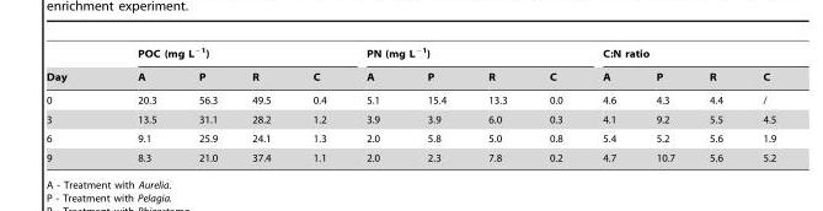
<table><thead><tr><td rowspan="2">Day</td><td colspan="4">POC (mg L<sup>−1</sup>)</td><td colspan="4">PN (mg L<sup>−1</sup>)</td><td colspan="4">C:N ratio</td></tr><tr><td>A</td><td>P</td><td>R</td><td>C</td><td>A</td><td>P</td><td>R</td><td>C</td><td>A</td><td>P</td><td>R</td><td>C</td></tr></thead><tbody><tr><td>0</td><td>20.3</td><td>56.3</td><td>49.5</td><td>0.4</td><td>5.1</td><td>15.4</td><td>13.3</td><td>0.0</td><td>4.6</td><td>4.3</td><td>4.4</td><td>/</td></tr><tr><td>3</td><td>13.5</td><td>31.1</td><td>28.2</td><td>1.2</td><td>3.9</td><td>3.9</td><td>6.0</td><td>0.3</td><td>4.1</td><td>9.2</td><td>5.5</td><td>4.5</td></tr><tr><td>6</td><td>9.1</td><td>25.9</td><td>24.1</td><td>1.3</td><td>2.0</td><td>5.8</td><td>5.0</td><td>0.8</td><td>5.4</td><td>5.2</td><td>5.6</td><td>1.9</td></tr><tr><td>9</td><td>8.3</td><td>21.0</td><td>37.4</td><td>1.1</td><td>2.0</td><td>2.3</td><td>7.8</td><td>0.2</td><td>4.7</td><td>10.7</td><td>5.6</td><td>5.2</td></tr></tbody></table>